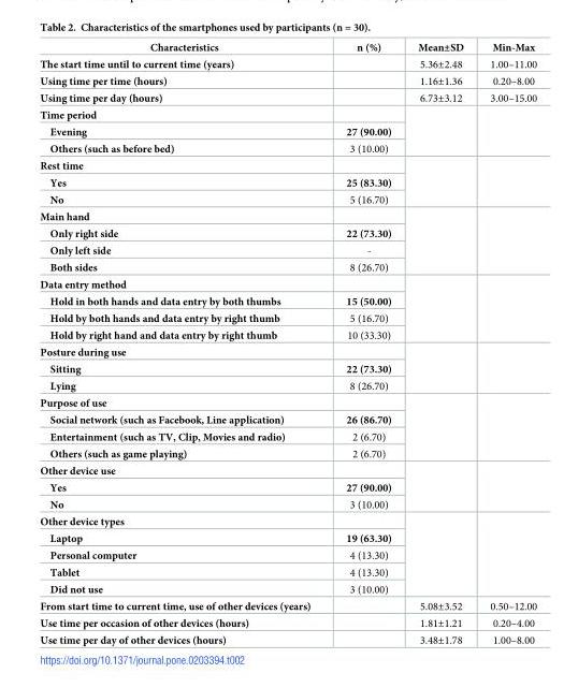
<table><thead><tr><td>Characteristics</td><td>n (%)</td><td>Mean±SD</td><td>Min-Max</td></tr></thead><tbody><tr><td>The start time until to current time (years)</td><td></td><td>5.36±2.48</td><td>1.00–11.00</td></tr><tr><td>Using time per time (hours)</td><td></td><td>1.16±1.36</td><td>0.20–8.00</td></tr><tr><td>Using time per day (hours)</td><td></td><td>6.73±3.12</td><td>3.00–15.00</td></tr><tr><td colspan="2">Time period</td><td rowspan="3"></td><td rowspan="3"></td></tr><tr><td>Evening</td><td>27 (90.00)</td></tr><tr><td>Others (such as before bed)</td><td>3 (10.00)</td></tr><tr><td colspan="2">Rest time</td><td rowspan="3"></td><td rowspan="3"></td></tr><tr><td>Yes</td><td>25 (83.30)</td></tr><tr><td>No</td><td>5 (16.70)</td></tr><tr><td colspan="2">Main hand</td><td rowspan="4"></td><td rowspan="4"></td></tr><tr><td>Only right side</td><td>22 (73.30)</td></tr><tr><td>Only left side</td><td>-</td></tr><tr><td>Both sides</td><td>8 (26.70)</td></tr><tr><td colspan="2">Data entry method</td><td rowspan="4"></td><td rowspan="4"></td></tr><tr><td>Hold in both hands and data entry by both thumbs</td><td>15 (50.00)</td></tr><tr><td>Hold by both hands and data entry by right thumb</td><td>5 (16.70)</td></tr><tr><td>Hold by right hand and data entry by right thumb</td><td>10 (33.30)</td></tr><tr><td colspan="2">Posture during use</td><td rowspan="3"></td><td rowspan="3"></td></tr><tr><td>Sitting</td><td>22 (73.30)</td></tr><tr><td>Lying</td><td>8 (26.70)</td></tr><tr><td colspan="2">Purpose of use</td><td rowspan="4"></td><td rowspan="4"></td></tr><tr><td>Social network (such as Facebook, Line application)</td><td>26 (86.70)</td></tr><tr><td>Entertainment (such as TV, Clip, Movies and radio)</td><td>2 (6.70)</td></tr><tr><td>Others (such as game playing)</td><td>2 (6.70)</td></tr><tr><td colspan="2">Other device use</td><td rowspan="3"></td><td rowspan="3"></td></tr><tr><td>Yes</td><td>27 (90.00)</td></tr><tr><td>No</td><td>3 (10.00)</td></tr><tr><td colspan="2">Other device types</td><td rowspan="5"></td><td rowspan="5"></td></tr><tr><td>Laptop</td><td>19 (63.30)</td></tr><tr><td>Personal computer</td><td>4 (13.30)</td></tr><tr><td>Tablet</td><td>4 (13.30)</td></tr><tr><td>Did not use</td><td>3 (10.00)</td></tr><tr><td>From start time to current time, use of other devices (years)</td><td></td><td>5.08±3.52</td><td>0.50–12.00</td></tr><tr><td>Use time per occasion of other devices (hours)</td><td></td><td>1.81±1.21</td><td>0.20–4.00</td></tr><tr><td>Use time per day of other devices (hours)</td><td></td><td>3.48±1.78</td><td>1.00–8.00</td></tr></tbody></table>